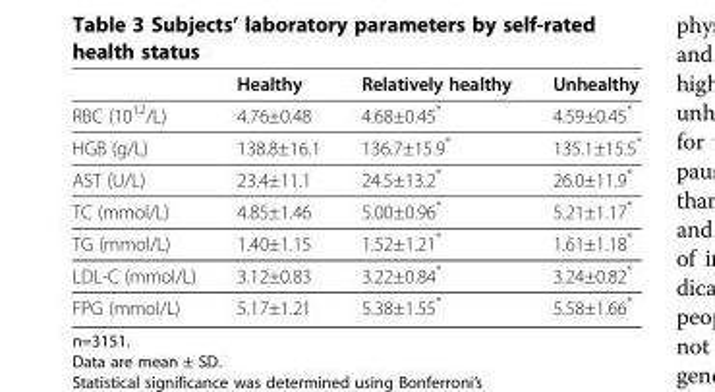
<table><thead><tr><td></td><td>Healthy</td><td>Relatively healthy</td><td>Unhealthy</td></tr></thead><tbody><tr><td>RBC (10<sup>12</sup>/L)</td><td>4.76±0.48</td><td>4.68±0.45*</td><td>4.59±0.45*</td></tr><tr><td>HGB (g/L)</td><td>138.8±16.1</td><td>136.7±15.9*</td><td>135.1±15.5*</td></tr><tr><td>AST (U/L)</td><td>23.4±11.1</td><td>24.5±13.2*</td><td>26.0±11.9*</td></tr><tr><td>TC (mmol/L)</td><td>4.85±1.46</td><td>5.00±0.96*</td><td>5.21±1.17*</td></tr><tr><td>TG (mmol/L)</td><td>1.40±1.15</td><td>1.52±1.21*</td><td>1.61±1.18*</td></tr><tr><td>LDL-C (mmol/L)</td><td>3.12±0.83</td><td>3.22±0.84*</td><td>3.24±0.82*</td></tr><tr><td>FPG (mmol/L)</td><td>5.17±1.21</td><td>5.38±1.55*</td><td>5.58±1.66*</td></tr></tbody></table>